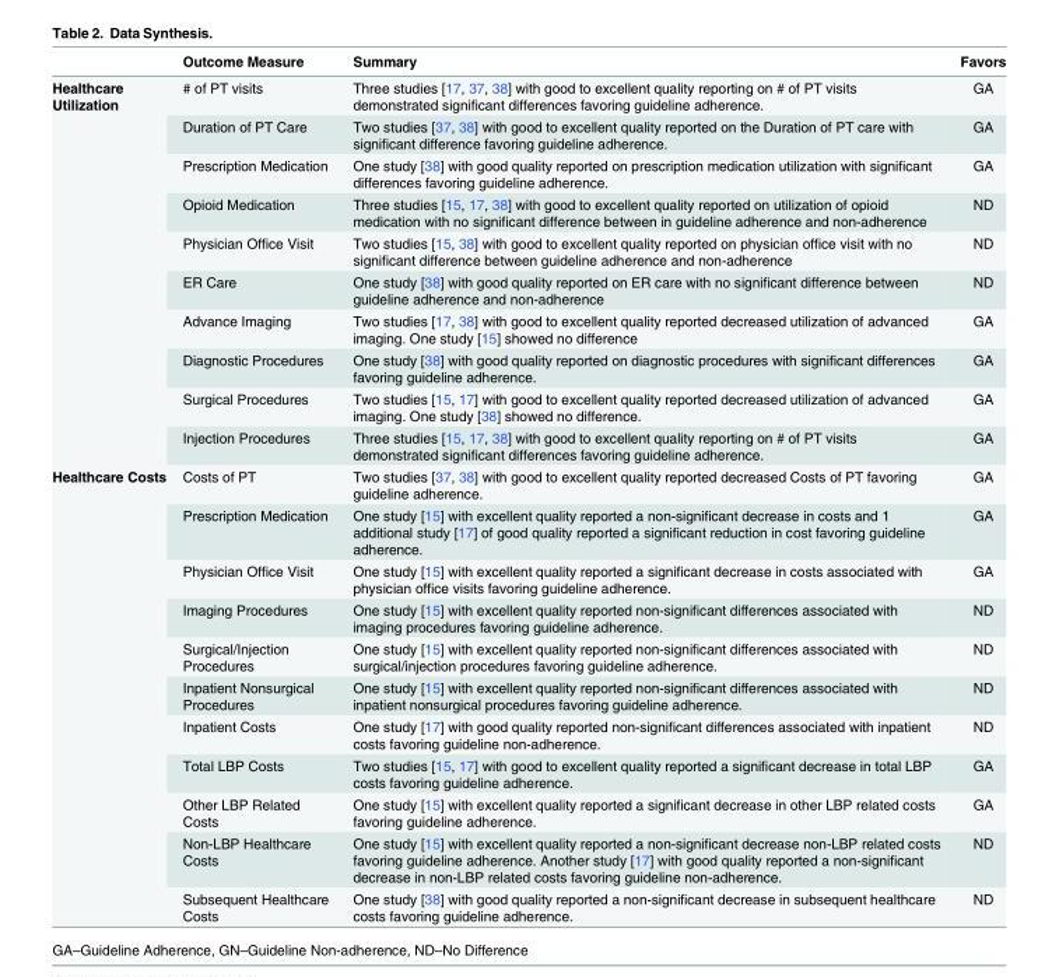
<table><thead><tr><td></td><td>Outcome Measure</td><td>Summary</td><td>Favors</td></tr></thead><tbody><tr><td rowspan="10">Healthcare Utilization</td><td># of PT visits</td><td>Three studies [17, 37, 38] with good to excellent quality reporting on # of PT visits demonstrated significant differences favoring guideline adherence.</td><td>GA</td></tr><tr><td>Duration of PT Care</td><td>Two studies [37, 38] with good to excellent quality reported on the Duration of PT care with significant difference favoring guideline adherence.</td><td>GA</td></tr><tr><td>Prescription Medication</td><td>One study [38] with good quality reported on prescription medication utilization with significant differences favoring guideline adherence.</td><td>GA</td></tr><tr><td>Opioid Medication</td><td>Three studies [15, 17, 38] with good to excellent quality reported on utilization of opioid medication with no significant difference between in guideline adherence and non-adherence</td><td>ND</td></tr><tr><td>Physician Office Visit</td><td>Two studies [15, 38] with good to excellent quality reported on physician office visit with no significant difference between guideline adherence and non-adherence</td><td>ND</td></tr><tr><td>ER Care</td><td>One study [38] with good quality reported on ER care with no significant difference between guideline adherence and non-adherence</td><td>ND</td></tr><tr><td>Advance Imaging</td><td>Two studies [17, 38] with good to excellent quality reported decreased utilization of advanced imaging. One study [15] showed no difference</td><td>GA</td></tr><tr><td>Diagnostic Procedures</td><td>One study [38] with good quality reported on diagnostic procedures with significant differences favoring guideline adherence.</td><td>GA</td></tr><tr><td>Surgical Procedures</td><td>Two studies [15, 17] with good to excellent quality reported decreased utilization of advanced imaging. One study [38] showed no difference.</td><td>GA</td></tr><tr><td>Injection Procedures</td><td>Three studies [15, 17, 38] with good to excellent quality reporting on # of PT visits demonstrated significant differences favoring guideline adherence.</td><td>GA</td></tr><tr><td rowspan="11">Healthcare Costs</td><td>Costs of PT</td><td>Two studies [37, 38] with good to excellent quality reported decreased Costs of PT favoring guideline adherence.</td><td>GA</td></tr><tr><td>Prescription Medication</td><td>One study [15] with excellent quality reported a non-significant decrease in costs and 1 additional study [17] of good quality reported a significant reduction in cost favoring guideline adherence.</td><td>GA</td></tr><tr><td>Physician Office Visit</td><td>One study [15] with excellent quality reported a significant decrease in costs associated with physician office visits favoring guideline adherence.</td><td>GA</td></tr><tr><td>Imaging Procedures</td><td>One study [15] with excellent quality reported non-significant differences associated with imaging procedures favoring guideline adherence.</td><td>ND</td></tr><tr><td>Surgical/Injection Procedures</td><td>One study [15] with excellent quality reported non-significant differences associated with surgical/injection procedures favoring guideline adherence.</td><td>ND</td></tr><tr><td>Inpatient Nonsurgical Procedures</td><td>One study [15] with excellent quality reported non-significant differences associated with inpatient nonsurgical procedures favoring guideline adherence.</td><td>ND</td></tr><tr><td>Inpatient Costs</td><td>One study [17] with good quality reported non-significant differences associated with inpatient costs favoring guideline non-adherence.</td><td>ND</td></tr><tr><td>Total LBP Costs</td><td>Two studies [15, 17] with good to excellent quality reported a significant decrease in total LBP costs favoring guideline adherence.</td><td>GA</td></tr><tr><td>Other LBP Related Costs</td><td>One study [15] with excellent quality reported a significant decrease in other LBP related costs favoring guideline adherence.</td><td>GA</td></tr><tr><td>Non-LBP Healthcare Costs</td><td>One study [15] with excellent quality reported a non-significant decrease non-LBP related costs favoring guideline adherence. Another study [17] with good quality reported a non-significant decrease in non-LBP related costs favoring guideline non-adherence.</td><td>ND</td></tr><tr><td>Subsequent Healthcare Costs</td><td>One study [38] with good quality reported a non-significant decrease in subsequent healthcare costs favoring guideline adherence.</td><td>ND</td></tr></tbody></table>